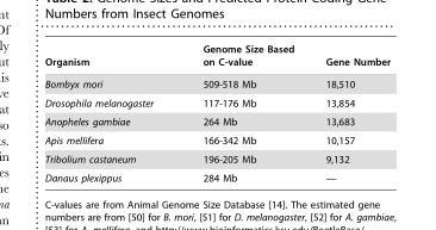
<table><thead><tr><td>Organism</td><td>Genome Size Based on C-value</td><td>Gene Number</td></tr></thead><tbody><tr><td>Bombyx mori</td><td>509-518 Mb</td><td>18,510</td></tr><tr><td>Drosophila melanogaster</td><td>117-176 Mb</td><td>13,854</td></tr><tr><td>Anopheles gambiae</td><td>264 Mb</td><td>13,683</td></tr><tr><td>Apis mellifera</td><td>166-342 Mb</td><td>10,157</td></tr><tr><td>Tribolium castaneum</td><td>196-205 Mb</td><td>9,132</td></tr><tr><td>Danaus plexippus</td><td>284 Mb</td><td>—</td></tr></tbody></table>